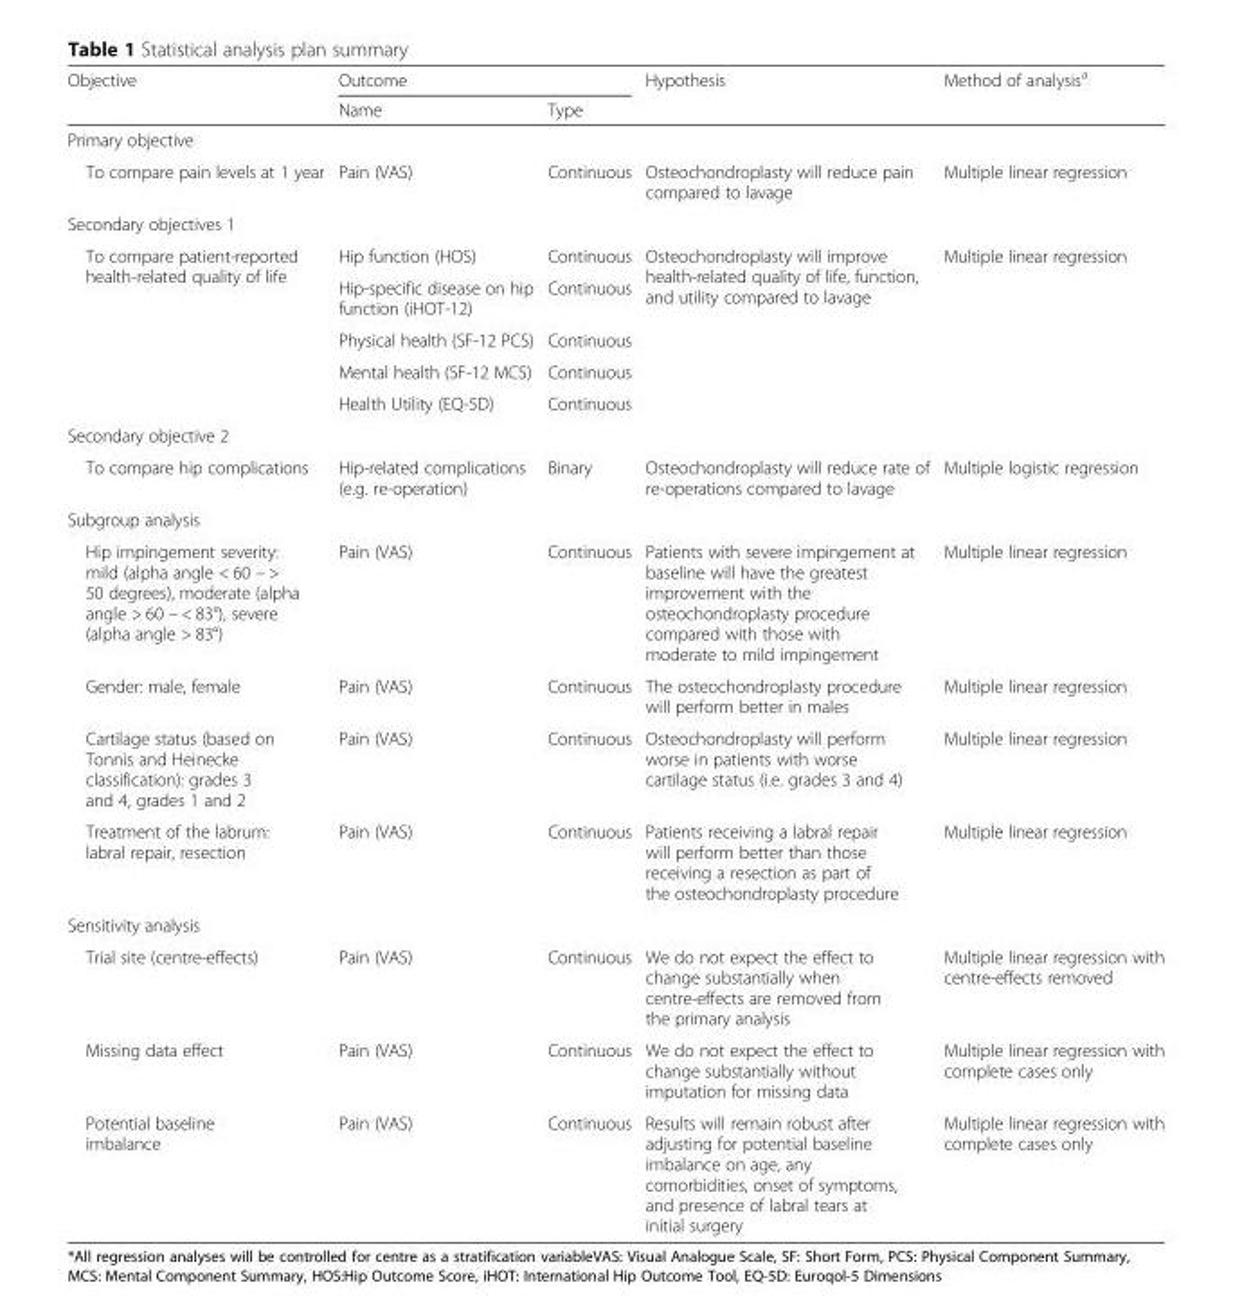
<table><thead><tr><td rowspan="2">Objective</td><td colspan="2">Outcome</td><td rowspan="2">Hypothesis</td><td rowspan="2">Method of analysis<sup>a</sup></td></tr><tr><td>Name</td><td>Type</td></tr></thead><tbody><tr><td colspan="5">Primary objective</td></tr><tr><td>To compare pain levels at 1 year</td><td>Pain (VAS)</td><td>Continuous</td><td>Osteochondroplasty will reduce pain compared to lavage</td><td>Multiple linear regression</td></tr><tr><td colspan="5">Secondary objectives 1</td></tr><tr><td rowspan="5">To compare patient-reported health-related quality of life</td><td>Hip function (HOS)</td><td>Continuous</td><td rowspan="5">Osteochondroplasty will improve health-related quality of life, function, and utility compared to lavage</td><td rowspan="5">Multiple linear regression</td></tr><tr><td>Hip-specific disease on hip function (iHOT-12)</td><td>Continuous</td></tr><tr><td>Physical health (SF-12 PCS)</td><td>Continuous</td></tr><tr><td>Mental health (SF-12 MCS)</td><td>Continuous</td></tr><tr><td>Health Utility (EQ-5D)</td><td>Continuous</td></tr><tr><td colspan="5">Secondary objective 2</td></tr><tr><td>To compare hip complications</td><td>Hip-related complications (e.g. re-operation)</td><td>Binary</td><td>Osteochondroplasty will reduce rate of re-operations compared to lavage</td><td>Multiple logistic regression</td></tr><tr><td colspan="5">Subgroup analysis</td></tr><tr><td>Hip impingement severity: mild (alpha angle &lt; 60 – &gt; 50 degrees), moderate (alpha angle &gt; 60 – &lt; 83°), severe (alpha angle &gt; 83°)</td><td>Pain (VAS)</td><td>Continuous</td><td>Patients with severe impingement at baseline will have the greatest improvement with the osteochondroplasty procedure compared with those with moderate to mild impingement</td><td>Multiple linear regression</td></tr><tr><td>Gender: male, female</td><td>Pain (VAS)</td><td>Continuous</td><td>The osteochondroplasty procedure will perform better in males</td><td>Multiple linear regression</td></tr><tr><td>Cartilage status (based on Tonnis and Heinecke classification): grades 3 and 4, grades 1 and 2</td><td>Pain (VAS)</td><td>Continuous</td><td>Osteochondroplasty will perform worse in patients with worse cartilage status (i.e. grades 3 and 4)</td><td>Multiple linear regression</td></tr><tr><td>Treatment of the labrum: labral repair, resection</td><td>Pain (VAS)</td><td>Continuous</td><td>Patients receiving a labral repair will perform better than those receiving a resection as part of the osteochondroplasty procedure</td><td>Multiple linear regression</td></tr><tr><td colspan="5">Sensitivity analysis</td></tr><tr><td>Trial site (centre-effects)</td><td>Pain (VAS)</td><td>Continuous</td><td>We do not expect the effect to change substantially when centre-effects are removed from the primary analysis</td><td>Multiple linear regression with centre-effects removed</td></tr><tr><td>Missing data effect</td><td>Pain (VAS)</td><td>Continuous</td><td>We do not expect the effect to change substantially without imputation for missing data</td><td>Multiple linear regression with complete cases only</td></tr><tr><td>Potential baseline imbalance</td><td>Pain (VAS)</td><td>Continuous</td><td>Results will remain robust after adjusting for potential baseline imbalance on age, any comorbidities, onset of symptoms, and presence of labral tears at initial surgery</td><td>Multiple linear regression with complete cases only</td></tr></tbody></table>